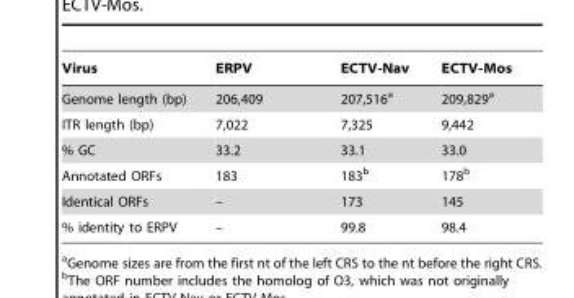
<table><thead><tr><td>Virus</td><td>ERPV</td><td>ECTV-Nav</td><td>ECTV-Mos</td></tr></thead><tbody><tr><td>Genome length (bp)</td><td>206,409</td><td>207,516<sup>a</sup></td><td>209,829<sup>a</sup></td></tr><tr><td>ITR length (bp)</td><td>7,022</td><td>7,325</td><td>9,442</td></tr><tr><td>% GC</td><td>33.2</td><td>33.1</td><td>33.0</td></tr><tr><td>Annotated ORFs</td><td>183</td><td>183<sup>b</sup></td><td>178<sup>b</sup></td></tr><tr><td>Identical ORFs</td><td>–</td><td>173</td><td>145</td></tr><tr><td>% identity to ERPV</td><td>–</td><td>99.8</td><td>98.4</td></tr></tbody></table>